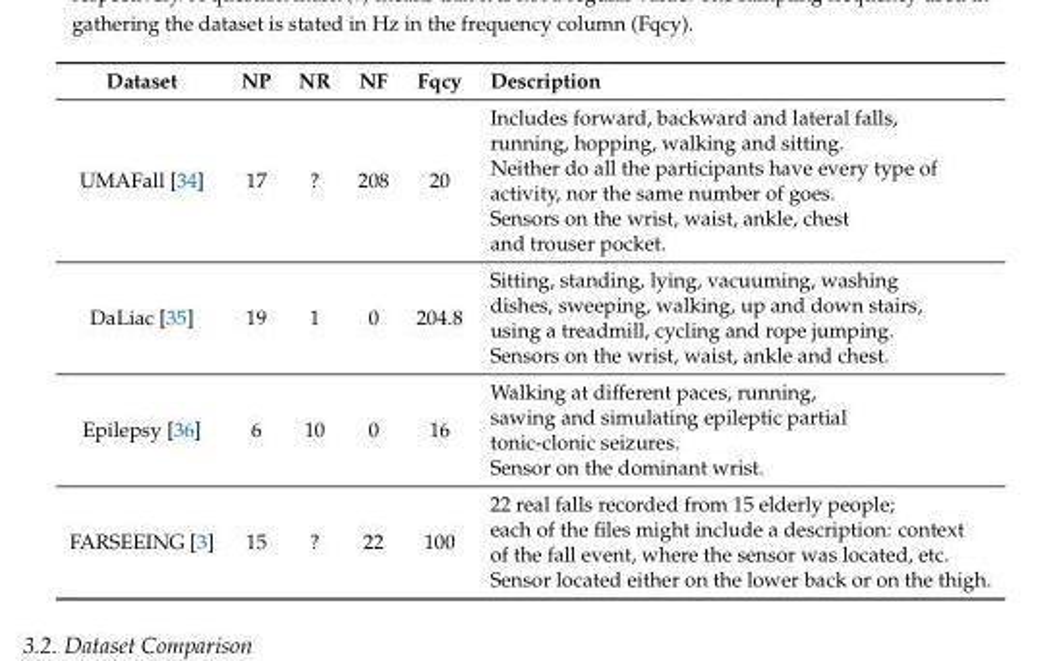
<table><thead><tr><td>Dataset</td><td>NP</td><td>NR</td><td>NF</td><td>Fqcy</td><td>Description</td></tr></thead><tbody><tr><td>UMAFall [34]</td><td>17</td><td>?</td><td>208</td><td>20</td><td>Includes forward, backward and lateral falls, running, hopping, walking and sitting. Neither do all the participants have every type of activity, nor the same number of goes. Sensors on the wrist, waist, ankle, chest and trouser pocket.</td></tr><tr><td>DaLiac [35]</td><td>19</td><td>1</td><td>0</td><td>204.8</td><td>Sitting, standing, lying, vacuuming, washing dishes, sweeping, walking, up and down stairs, using a treadmill, cycling and rope jumping. Sensors on the wrist, waist, ankle and chest.</td></tr><tr><td>Epilepsy [36]</td><td>6</td><td>10</td><td>0</td><td>16</td><td>Walking at different paces, running, sawing and simulating epileptic partial tonic-clonic seizures. Sensor on the dominant wrist.</td></tr><tr><td>FARSEEING [3]</td><td>15</td><td>?</td><td>22</td><td>100</td><td>22 real falls recorded from 15 elderly people; each of the files might include a description: context of the fall event, where the sensor was located, etc. Sensor located either on the lower back or on the thigh.</td></tr></tbody></table>